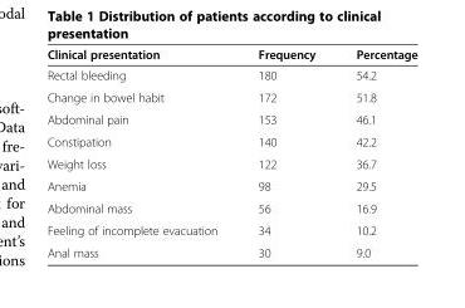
<table><thead><tr><td>Clinical presentation</td><td>Frequency</td><td>Percentage</td></tr></thead><tbody><tr><td>Rectal bleeding</td><td>180</td><td>54.2</td></tr><tr><td>Change in bowel habit</td><td>172</td><td>51.8</td></tr><tr><td>Abdominal pain</td><td>153</td><td>46.1</td></tr><tr><td>Constipation</td><td>140</td><td>42.2</td></tr><tr><td>Weight loss</td><td>122</td><td>36.7</td></tr><tr><td>Anemia</td><td>98</td><td>29.5</td></tr><tr><td>Abdominal mass</td><td>56</td><td>16.9</td></tr><tr><td>Feeling of incomplete evacuation</td><td>34</td><td>10.2</td></tr><tr><td>Anal mass</td><td>30</td><td>9.0</td></tr></tbody></table>